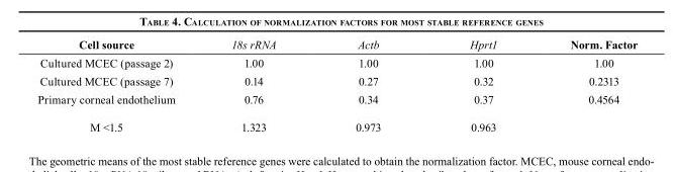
<table><thead><tr><td>Cell source</td><td>18s rRNA</td><td>Actb</td><td>Hprt1</td><td>Norm. Factor</td></tr></thead><tbody><tr><td>Cultured MCEC (passage 2)</td><td>1.00</td><td>1.00</td><td>1.00</td><td>1.00</td></tr><tr><td>Cultured MCEC (passage 7)</td><td>0.14</td><td>0.27</td><td>0.32</td><td>0.2313</td></tr><tr><td>Primary corneal endothelium</td><td>0.76</td><td>0.34</td><td>0.37</td><td>0.4564</td></tr><tr><td>M &lt;1.5</td><td>1.323</td><td>0.973</td><td>0.963</td><td></td></tr></tbody></table>